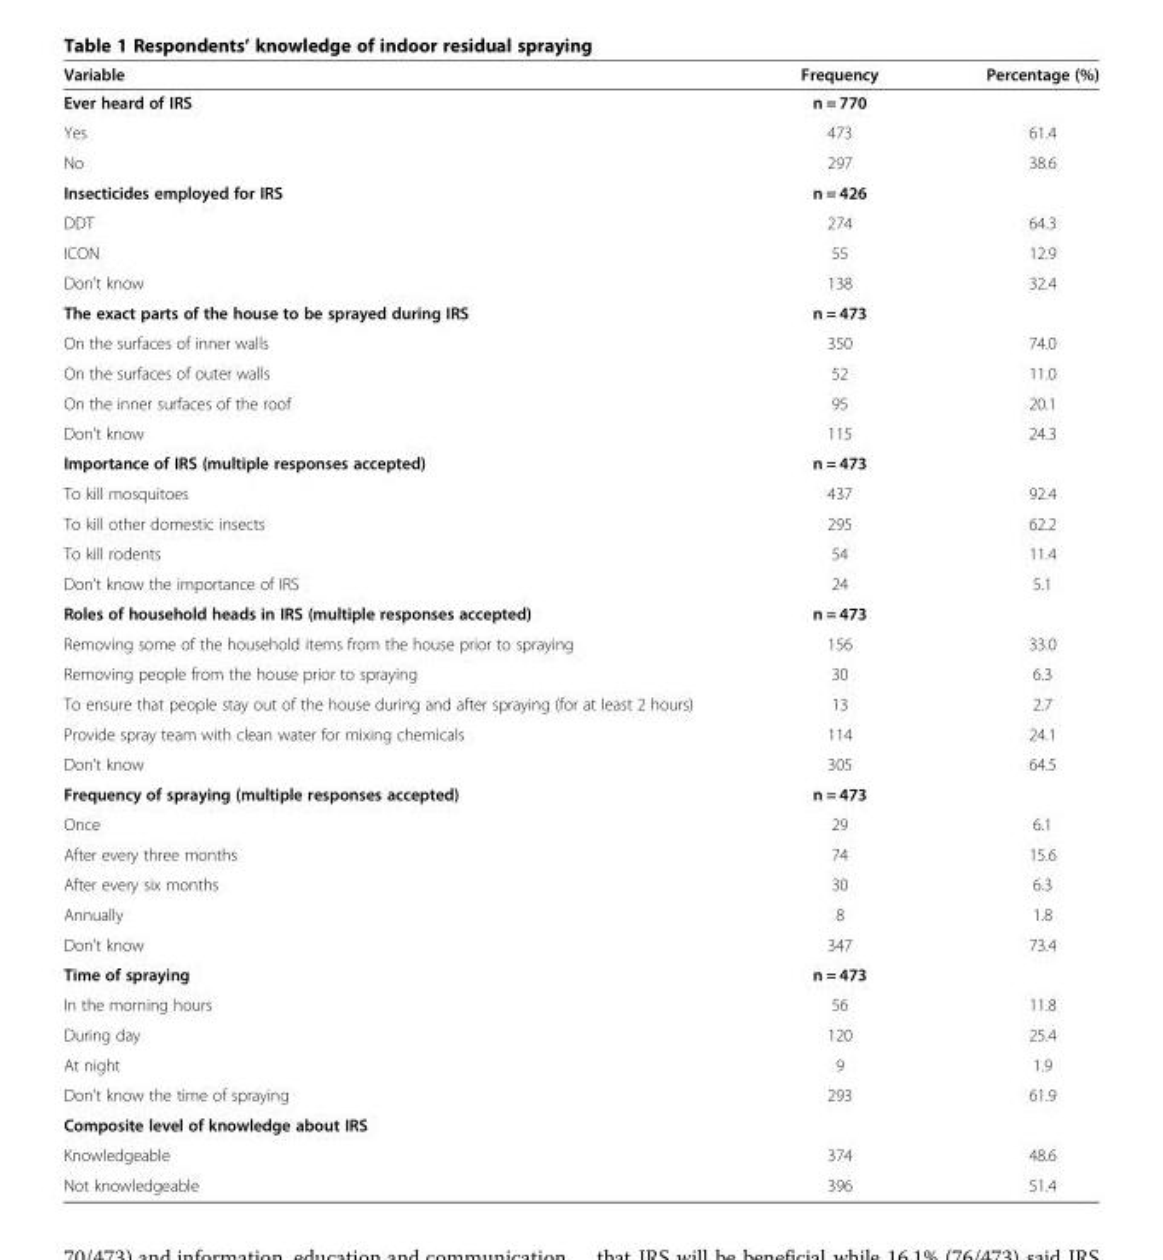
<table><thead><tr><td>Variable</td><td>Frequency</td><td>Percentage (%)</td></tr></thead><tbody><tr><td>Ever heard of IRS</td><td>n = 770</td><td></td></tr><tr><td>Yes</td><td>473</td><td>61.4</td></tr><tr><td>No</td><td>297</td><td>38.6</td></tr><tr><td>Insecticides employed for IRS</td><td>n = 426</td><td></td></tr><tr><td>DDT</td><td>274</td><td>64.3</td></tr><tr><td>ICON</td><td>55</td><td>12.9</td></tr><tr><td>Don’t know</td><td>138</td><td>32.4</td></tr><tr><td>The exact parts of the house to be sprayed during IRS</td><td>n = 473</td><td></td></tr><tr><td>On the surfaces of inner walls</td><td>350</td><td>74.0</td></tr><tr><td>On the surfaces of outer walls</td><td>52</td><td>11.0</td></tr><tr><td>On the inner surfaces of the roof</td><td>95</td><td>20.1</td></tr><tr><td>Don’t know</td><td>115</td><td>24.3</td></tr><tr><td>Importance of IRS (multiple responses accepted)</td><td>n = 473</td><td></td></tr><tr><td>To kill mosquitoes</td><td>437</td><td>92.4</td></tr><tr><td>To kill other domestic insects</td><td>295</td><td>62.2</td></tr><tr><td>To kill rodents</td><td>54</td><td>11.4</td></tr><tr><td>Don’t know the importance of IRS</td><td>24</td><td>5.1</td></tr><tr><td>Roles of household heads in IRS (multiple responses accepted)</td><td>n = 473</td><td></td></tr><tr><td>Removing some of the household items from the house prior to spraying</td><td>156</td><td>33.0</td></tr><tr><td>Removing people from the house prior to spraying</td><td>30</td><td>6.3</td></tr><tr><td>To ensure that people stay out of the house during and after spraying (for at least 2 hours)</td><td>13</td><td>2.7</td></tr><tr><td>Provide spray team with clean water for mixing chemicals</td><td>114</td><td>24.1</td></tr><tr><td>Don’t know</td><td>305</td><td>64.5</td></tr><tr><td>Frequency of spraying (multiple responses accepted)</td><td>n = 473</td><td></td></tr><tr><td>Once</td><td>29</td><td>6.1</td></tr><tr><td>After every three months</td><td>74</td><td>15.6</td></tr><tr><td>After every six months</td><td>30</td><td>6.3</td></tr><tr><td>Annually</td><td>8</td><td>1.8</td></tr><tr><td>Don’t know</td><td>347</td><td>73.4</td></tr><tr><td>Time of spraying</td><td>n = 473</td><td></td></tr><tr><td>In the morning hours</td><td>56</td><td>11.8</td></tr><tr><td>During day</td><td>120</td><td>25.4</td></tr><tr><td>At night</td><td>9</td><td>1.9</td></tr><tr><td>Don’t know the time of spraying</td><td>293</td><td>61.9</td></tr><tr><td colspan="3">Composite level of knowledge about IRS</td></tr><tr><td>Knowledgeable</td><td>374</td><td>48.6</td></tr><tr><td>Not knowledgeable</td><td>396</td><td>51.4</td></tr></tbody></table>